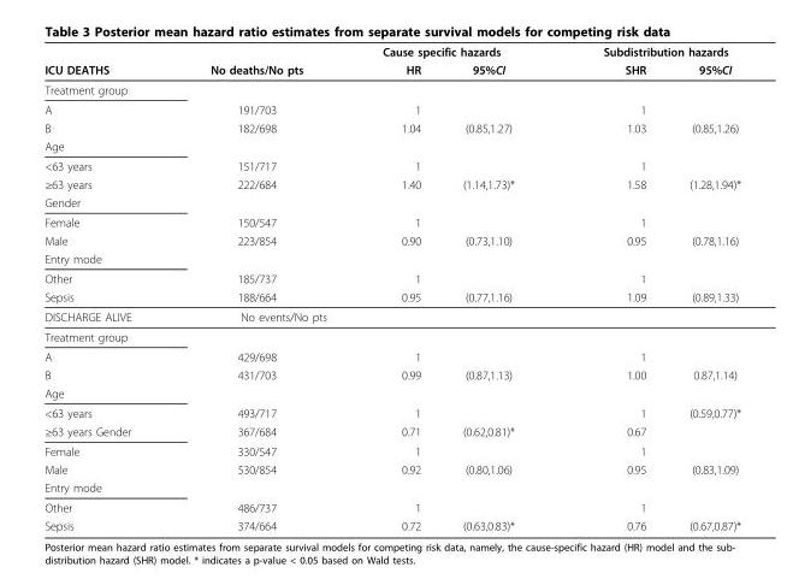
<table><thead><tr><td rowspan="2">ICU DEATHS</td><td rowspan="2">No deaths/No pts</td><td colspan="2">Cause specific hazards</td><td colspan="2">Subdistribution hazards</td></tr><tr><td>HR</td><td>95%CI</td><td>SHR</td><td>95%CI</td></tr></thead><tbody><tr><td colspan="6">Treatment group</td></tr><tr><td>A</td><td>191/703</td><td>1</td><td></td><td>1</td><td></td></tr><tr><td>B</td><td>182/698</td><td>1.04</td><td>(0.85,1.27)</td><td>1.03</td><td>(0.85,1.26)</td></tr><tr><td colspan="6">Age</td></tr><tr><td>&lt;63 years</td><td>151/717</td><td>1</td><td></td><td>1</td><td></td></tr><tr><td>≥63 years</td><td>222/684</td><td>1.40</td><td>(1.14,1.73)*</td><td>1.58</td><td>(1.28,1.94)*</td></tr><tr><td colspan="6">Gender</td></tr><tr><td>Female</td><td>150/547</td><td>1</td><td></td><td>1</td><td></td></tr><tr><td>Male</td><td>223/854</td><td>0.90</td><td>(0.73,1.10)</td><td>0.95</td><td>(0.78,1.16)</td></tr><tr><td colspan="6">Entry mode</td></tr><tr><td>Other</td><td>185/737</td><td>1</td><td></td><td>1</td><td></td></tr><tr><td>Sepsis</td><td>188/664</td><td>0.95</td><td>(0.77,1.16)</td><td>1.09</td><td>(0.89,1.33)</td></tr><tr><td>DISCHARGE ALIVE</td><td>No events/No pts</td><td></td><td></td><td></td><td></td></tr><tr><td colspan="6">Treatment group</td></tr><tr><td>A</td><td>429/698</td><td>1</td><td></td><td>1</td><td></td></tr><tr><td>B</td><td>431/703</td><td>0.99</td><td>(0.87,1.13)</td><td>1.00</td><td>0.87,1.14)</td></tr><tr><td colspan="6">Age</td></tr><tr><td>&lt;63 years</td><td>493/717</td><td>1</td><td></td><td>1</td><td>(0.59,0.77)*</td></tr><tr><td>≥63 years Gender</td><td>367/684</td><td>0.71</td><td>(0.62,0.81)*</td><td>0.67</td><td></td></tr><tr><td>Female</td><td>330/547</td><td>1</td><td></td><td>1</td><td></td></tr><tr><td>Male</td><td>530/854</td><td>0.92</td><td>(0.80,1.06)</td><td>0.95</td><td>(0.83,1.09)</td></tr><tr><td colspan="6">Entry mode</td></tr><tr><td>Other</td><td>486/737</td><td>1</td><td></td><td>1</td><td></td></tr><tr><td>Sepsis</td><td>374/664</td><td>0.72</td><td>(0.63,0.83)*</td><td>0.76</td><td>(0.67,0.87)*</td></tr></tbody></table>